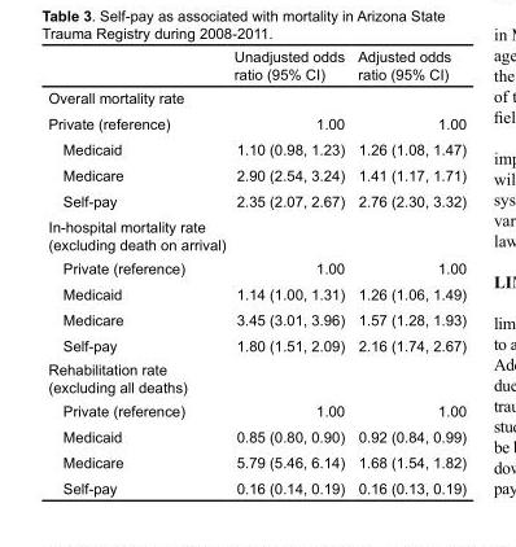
<table><thead><tr><td></td><td>Unadjusted odds ratio (95% CI)</td><td>Adjusted odds ratio (95% CI)</td></tr></thead><tbody><tr><td colspan="3">Overall mortality rate</td></tr><tr><td>Private (reference)</td><td>1.00</td><td>1.00</td></tr><tr><td>Medicaid</td><td>1.10 (0.98, 1.23)</td><td>1.26 (1.08, 1.47)</td></tr><tr><td>Medicare</td><td>2.90 (2.54, 3.24)</td><td>1.41 (1.17, 1.71)</td></tr><tr><td>Self-pay</td><td>2.35 (2.07, 2.67)</td><td>2.76 (2.30, 3.32)</td></tr><tr><td colspan="3">In-hospital mortality rate (excluding death on arrival)</td></tr><tr><td>Private (reference)</td><td>1.00</td><td>1.00</td></tr><tr><td>Medicaid</td><td>1.14 (1.00, 1.31)</td><td>1.26 (1.06, 1.49)</td></tr><tr><td>Medicare</td><td>3.45 (3.01, 3.96)</td><td>1.57 (1.28, 1.93)</td></tr><tr><td>Self-pay</td><td>1.80 (1.51, 2.09)</td><td>2.16 (1.74, 2.67)</td></tr><tr><td colspan="3">Rehabilitation rate (excluding all deaths)</td></tr><tr><td>Private (reference)</td><td>1.00</td><td>1.00</td></tr><tr><td>Medicaid</td><td>0.85 (0.80, 0.90)</td><td>0.92 (0.84, 0.99)</td></tr><tr><td>Medicare</td><td>5.79 (5.46, 6.14)</td><td>1.68 (1.54, 1.82)</td></tr><tr><td>Self-pay</td><td>0.16 (0.14, 0.19)</td><td>0.16 (0.13, 0.19)</td></tr></tbody></table>